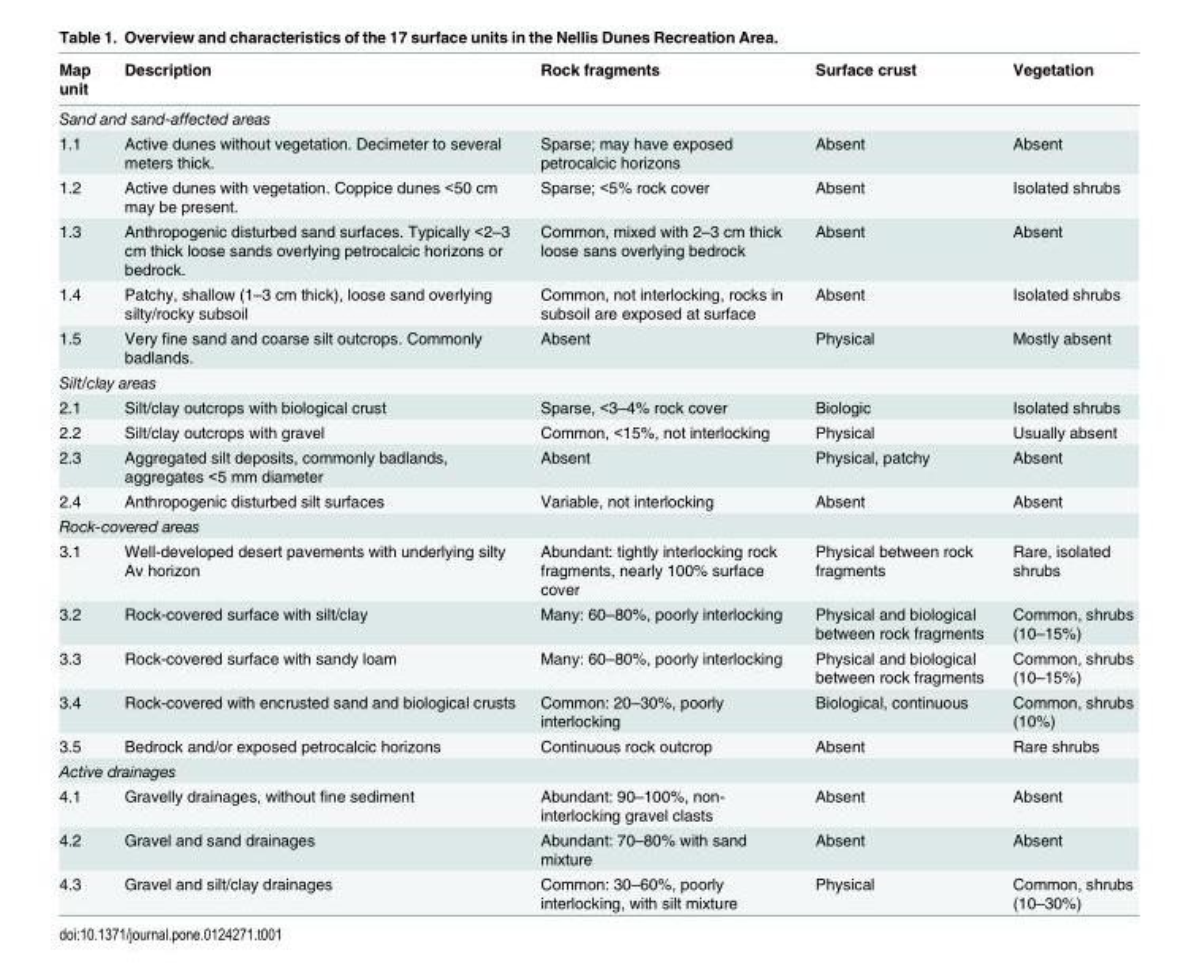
<table><thead><tr><td>Map unit</td><td>Description</td><td>Rock fragments</td><td>Surface crust</td><td>Vegetation</td></tr></thead><tbody><tr><td colspan="5">Sand and sand-affected areas</td></tr><tr><td>1.1</td><td>Active dunes without vegetation. Decimeter to several meters thick.</td><td>Sparse; may have exposed petrocalcic horizons</td><td>Absent</td><td>Absent</td></tr><tr><td>1.2</td><td>Active dunes with vegetation. Coppice dunes &lt;50 cm may be present.</td><td>Sparse; &lt;5% rock cover</td><td>Absent</td><td>Isolated shrubs</td></tr><tr><td>1.3</td><td>Anthropogenic disturbed sand surfaces. Typically &lt;2–3 cm thick loose sands overlying petrocalcic horizons or bedrock.</td><td>Common, mixed with 2–3 cm thick loose sans overlying bedrock</td><td>Absent</td><td>Absent</td></tr><tr><td>1.4</td><td>Patchy, shallow (1–3 cm thick), loose sand overlying silty/rocky subsoil</td><td>Common, not interlocking, rocks in subsoil are exposed at surface</td><td>Absent</td><td>Isolated shrubs</td></tr><tr><td>1.5</td><td>Very fine sand and coarse silt outcrops. Commonly badlands.</td><td>Absent</td><td>Physical</td><td>Mostly absent</td></tr><tr><td colspan="5">Silt/clay areas</td></tr><tr><td>2.1</td><td>Silt/clay outcrops with biological crust</td><td>Sparse, &lt;3–4% rock cover</td><td>Biologic</td><td>Isolated shrubs</td></tr><tr><td>2.2</td><td>Silt/clay outcrops with gravel</td><td>Common, &lt;15%, not interlocking</td><td>Physical</td><td>Usually absent</td></tr><tr><td>2.3</td><td>Aggregated silt deposits, commonly badlands, aggregates &lt;5 mm diameter</td><td>Absent</td><td>Physical, patchy</td><td>Absent</td></tr><tr><td>2.4</td><td>Anthropogenic disturbed silt surfaces</td><td>Variable, not interlocking</td><td>Absent</td><td>Absent</td></tr><tr><td colspan="5">Rock-covered areas</td></tr><tr><td>3.1</td><td>Well-developed desert pavements with underlying silty Av horizon</td><td>Abundant: tightly interlocking rock fragments, nearly 100% surface cover</td><td>Physical between rock fragments</td><td>Rare, isolated shrubs</td></tr><tr><td>3.2</td><td>Rock-covered surface with silt/clay</td><td>Many: 60–80%, poorly interlocking</td><td>Physical and biological between rock fragments</td><td>Common, shrubs (10–15%)</td></tr><tr><td>3.3</td><td>Rock-covered surface with sandy loam</td><td>Many: 60–80%, poorly interlocking</td><td>Physical and biological between rock fragments</td><td>Common, shrubs (10–15%)</td></tr><tr><td>3.4</td><td>Rock-covered with encrusted sand and biological crusts</td><td>Common: 20–30%, poorly interlocking</td><td>Biological, continuous</td><td>Common, shrubs (10%)</td></tr><tr><td>3.5</td><td>Bedrock and/or exposed petrocalcic horizons</td><td>Continuous rock outcrop</td><td>Absent</td><td>Rare shrubs</td></tr><tr><td colspan="5">Active drainages</td></tr><tr><td>4.1</td><td>Gravelly drainages, without fine sediment</td><td>Abundant: 90–100%, non- interlocking gravel clasts</td><td>Absent</td><td>Absent</td></tr><tr><td>4.2</td><td>Gravel and sand drainages</td><td>Abundant: 70–80% with sand mixture</td><td>Absent</td><td>Absent</td></tr><tr><td>4.3</td><td>Gravel and silt/clay drainages</td><td>Common: 30–60%, poorly interlocking, with silt mixture</td><td>Physical</td><td>Common, shrubs (10–30%)</td></tr></tbody></table>